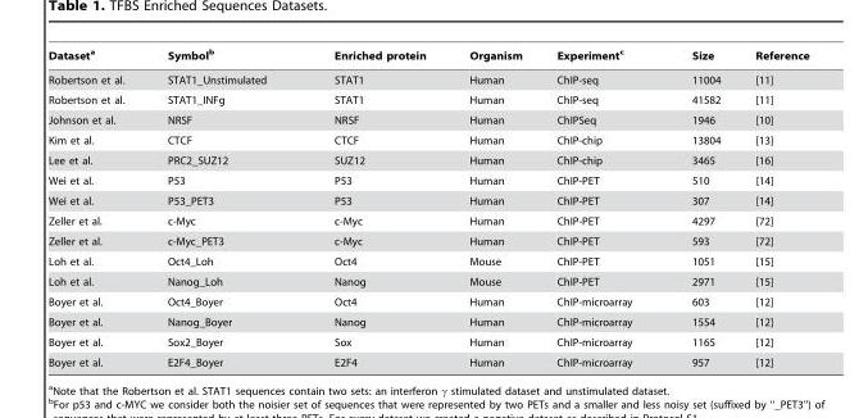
<table><thead><tr><td>Dataset<sup>a</sup></td><td>Symbol<sup>b</sup></td><td>Enriched protein</td><td>Organism</td><td>Experiment<sup>c</sup></td><td>Size</td><td>Reference</td></tr></thead><tbody><tr><td>Robertson et al.</td><td>STAT1_Unstimulated</td><td>STAT1</td><td>Human</td><td>ChIP-seq</td><td>11004</td><td>[11]</td></tr><tr><td>Robertson et al.</td><td>STAT1_INFg</td><td>STAT1</td><td>Human</td><td>ChIP-seq</td><td>41582</td><td>[11]</td></tr><tr><td>Johnson et al.</td><td>NRSF</td><td>NRSF</td><td>Human</td><td>ChIPSeq</td><td>1946</td><td>[10]</td></tr><tr><td>Kim et al.</td><td>CTCF</td><td>CTCF</td><td>Human</td><td>ChIP-chip</td><td>13804</td><td>[13]</td></tr><tr><td>Lee et al.</td><td>PRC2_SUZ12</td><td>SUZ12</td><td>Human</td><td>ChIP-chip</td><td>3465</td><td>[16]</td></tr><tr><td>Wei et al.</td><td>P53</td><td>P53</td><td>Human</td><td>ChIP-PET</td><td>510</td><td>[14]</td></tr><tr><td>Wei et al.</td><td>P53_PET3</td><td>P53</td><td>Human</td><td>ChIP-PET</td><td>307</td><td>[14]</td></tr><tr><td>Zeller et al.</td><td>c-Myc</td><td>c-Myc</td><td>Human</td><td>ChIP-PET</td><td>4297</td><td>[72]</td></tr><tr><td>Zeller et al.</td><td>c-Myc_PET3</td><td>c-Myc</td><td>Human</td><td>ChIP-PET</td><td>593</td><td>[72]</td></tr><tr><td>Loh et al.</td><td>Oct4_Loh</td><td>Oct4</td><td>Mouse</td><td>ChIP-PET</td><td>1051</td><td>[15]</td></tr><tr><td>Loh et al.</td><td>Nanog_Loh</td><td>Nanog</td><td>Mouse</td><td>ChIP-PET</td><td>2971</td><td>[15]</td></tr><tr><td>Boyer et al.</td><td>Oct4_Boyer</td><td>Oct4</td><td>Human</td><td>ChIP-microarray</td><td>603</td><td>[12]</td></tr><tr><td>Boyer et al.</td><td>Nanog_Boyer</td><td>Nanog</td><td>Human</td><td>ChIP-microarray</td><td>1554</td><td>[12]</td></tr><tr><td>Boyer et al.</td><td>Sox2_Boyer</td><td>Sox</td><td>Human</td><td>ChIP-microarray</td><td>1165</td><td>[12]</td></tr><tr><td>Boyer et al.</td><td>E2F4_Boyer</td><td>E2F4</td><td>Human</td><td>ChIP-microarray</td><td>957</td><td>[12]</td></tr></tbody></table>